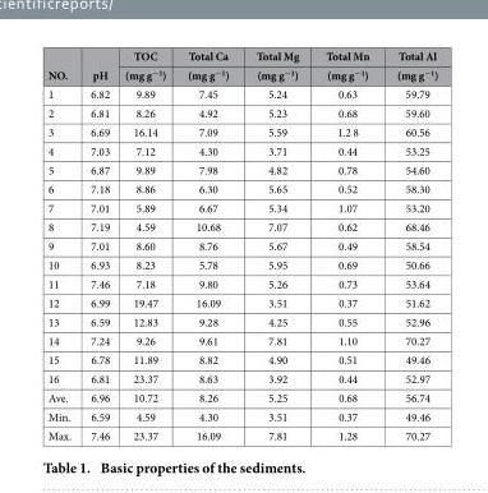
<table><thead><tr><td rowspan="2">NO.</td><td rowspan="2">pH</td><td rowspan="2">TOC (mg g<sup>−1</sup>)</td><td rowspan="2">Total Ca (mg g<sup>−1</sup>)</td><td rowspan="2">Total Mg (mg g<sup>−1</sup>)</td><td rowspan="2">Total Mn (mg g<sup>−1</sup>)</td><td rowspan="2">Total Al (mg g<sup>−1</sup>)</td></tr><tr></tr></thead><tbody><tr><td>1</td><td>6.82</td><td>9.89</td><td>7.45</td><td>5.24</td><td>0.63</td><td>59.79</td></tr><tr><td>2</td><td>6.81</td><td>8.26</td><td>4.92</td><td>5.23</td><td>0.68</td><td>59.60</td></tr><tr><td>3</td><td>6.69</td><td>16.14</td><td>7.09</td><td>5.59</td><td>1.2 8</td><td>60.56</td></tr><tr><td>4</td><td>7.03</td><td>7.12</td><td>4.30</td><td>3.71</td><td>0.44</td><td>53.25</td></tr><tr><td>5</td><td>6.87</td><td>9.89</td><td>7.98</td><td>4.82</td><td>0.78</td><td>54.60</td></tr><tr><td>6</td><td>7.18</td><td>8.86</td><td>6.30</td><td>5.65</td><td>0.52</td><td>58.30</td></tr><tr><td>7</td><td>7.01</td><td>5.89</td><td>6.67</td><td>5.34</td><td>1.07</td><td>53.20</td></tr><tr><td>8</td><td>7.19</td><td>4.59</td><td>10.68</td><td>7.07</td><td>0.62</td><td>68.46</td></tr><tr><td>9</td><td>7.01</td><td>8.60</td><td>8.76</td><td>5.67</td><td>0.49</td><td>58.54</td></tr><tr><td>10</td><td>6.93</td><td>8.23</td><td>5.78</td><td>5.95</td><td>0.69</td><td>50.66</td></tr><tr><td>11</td><td>7.46</td><td>7.18</td><td>9.80</td><td>5.26</td><td>0.73</td><td>53.64</td></tr><tr><td>12</td><td>6.99</td><td>19.47</td><td>16.09</td><td>3.51</td><td>0.37</td><td>51.62</td></tr><tr><td>13</td><td>6.59</td><td>12.83</td><td>9.28</td><td>4.25</td><td>0.55</td><td>52.96</td></tr><tr><td>14</td><td>7.24</td><td>9.26</td><td>9.61</td><td>7.81</td><td>1.10</td><td>70.27</td></tr><tr><td>15</td><td>6.78</td><td>11.89</td><td>8.82</td><td>4.90</td><td>0.51</td><td>49.46</td></tr><tr><td>16</td><td>6.81</td><td>23.37</td><td>8.63</td><td>3.92</td><td>0.44</td><td>52.97</td></tr><tr><td>Ave.</td><td>6.96</td><td>10.72</td><td>8.26</td><td>5.25</td><td>0.68</td><td>56.74</td></tr><tr><td>Min.</td><td>6.59</td><td>4.59</td><td>4.30</td><td>3.51</td><td>0.37</td><td>49.46</td></tr><tr><td>Max.</td><td>7.46</td><td>23.37</td><td>16.09</td><td>7.81</td><td>1.28</td><td>70.27</td></tr></tbody></table>